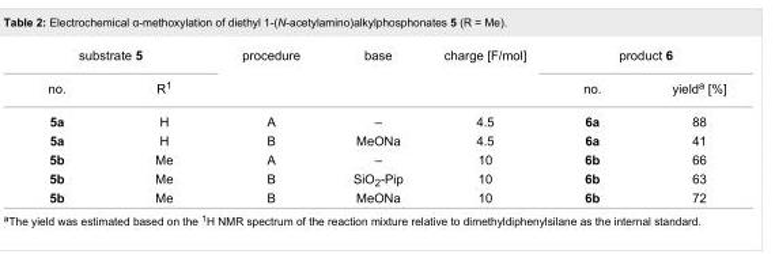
<table><tbody><tr><td colspan="2">substrate 5</td><td>procedure</td><td>base</td><td>charge [F/mol]</td><td colspan="2">product 6</td></tr><tr><td>no.</td><td>R<sup>1</sup></td><td></td><td></td><td></td><td>no.</td><td>yield<sup>a</sup> [%]</td></tr><tr><td>5a</td><td>H</td><td>A</td><td>–</td><td>4.5</td><td>6a</td><td>88</td></tr><tr><td>5a</td><td>H</td><td>B</td><td>MeONa</td><td>4.5</td><td>6a</td><td>41</td></tr><tr><td>5b</td><td>Me</td><td>A</td><td>–</td><td>10</td><td>6b</td><td>66</td></tr><tr><td>5b</td><td>Me</td><td>B</td><td>SiO<sub>2</sub>-Pip</td><td>10</td><td>6b</td><td>63</td></tr><tr><td>5b</td><td>Me</td><td>B</td><td>MeONa</td><td>10</td><td>6b</td><td>72</td></tr></tbody></table>